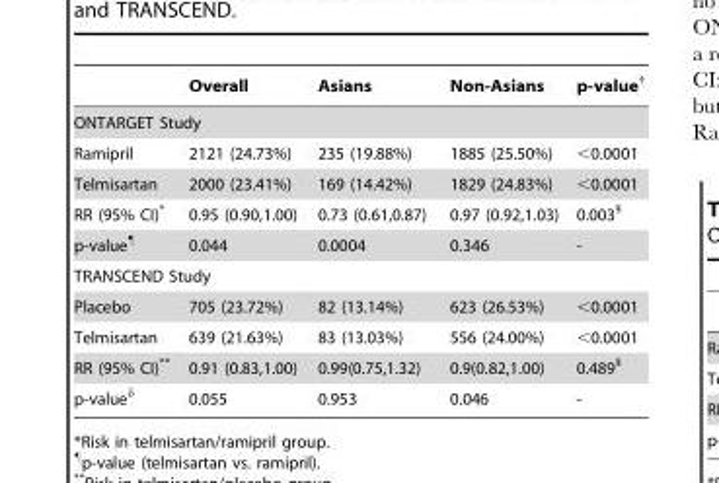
<table><thead><tr><td></td><td>Overall</td><td>Asians</td><td>Non-Asians</td><td>p-value†</td></tr></thead><tbody><tr><td colspan="5">ONTARGET Study</td></tr><tr><td>Ramipril</td><td>2121 (24.73%)</td><td>235 (19.88%)</td><td>1885 (25.50%)</td><td>&lt;0.0001</td></tr><tr><td>Telmisartan</td><td>2000 (23.41%)</td><td>169 (14.42%)</td><td>1829 (24.83%)</td><td>&lt;0.0001</td></tr><tr><td>RR (95% CI)*</td><td>0.95 (0.90,1.00)</td><td>0.73 (0.61,0.87)</td><td>0.97 (0.92,1.03)</td><td>0.003§</td></tr><tr><td>p-value¶</td><td>0.044</td><td>0.0004</td><td>0.346</td><td>-</td></tr><tr><td colspan="5">TRANSCEND Study</td></tr><tr><td>Placebo</td><td>705 (23.72%)</td><td>82 (13.14%)</td><td>623 (26.53%)</td><td>&lt;0.0001</td></tr><tr><td>Telmisartan</td><td>639 (21.63%)</td><td>83 (13.03%)</td><td>556 (24.00%)</td><td>&lt;0.0001</td></tr><tr><td>RR (95% CI)**</td><td>0.91 (0.83,1.00)</td><td>0.99(0.75,1.32)</td><td>0.9(0.82,1.00)</td><td>0.489§</td></tr><tr><td>p-valueδ</td><td>0.055</td><td>0.953</td><td>0.046</td><td>-</td></tr></tbody></table>